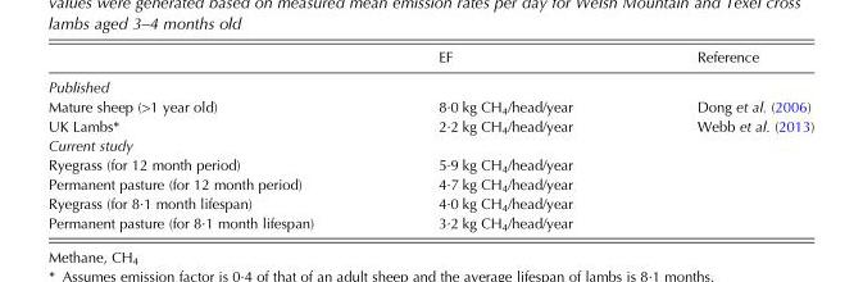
<table><thead><tr><td></td><td>EF</td><td>Reference</td></tr></thead><tbody><tr><td colspan="3">Published</td></tr><tr><td>Mature sheep (&gt;1 year old)</td><td>8·0 kg CH<sub>4</sub>/head/year</td><td>Dong et al. (2006)</td></tr><tr><td>UK Lambs*</td><td>2·2 kg CH<sub>4</sub>/head/year</td><td>Webb et al. (2013)</td></tr><tr><td colspan="3">Current study</td></tr><tr><td>Ryegrass (for 12 month period)</td><td>5·9 kg CH<sub>4</sub>/head/year</td><td></td></tr><tr><td>Permanent pasture (for 12 month period)</td><td>4·7 kg CH<sub>4</sub>/head/year</td><td></td></tr><tr><td>Ryegrass (for 8·1 month lifespan)</td><td>4·0 kg CH<sub>4</sub>/head/year</td><td></td></tr><tr><td>Permanent pasture (for 8·1 month lifespan)</td><td>3·2 kg CH<sub>4</sub>/head/year</td><td></td></tr></tbody></table>